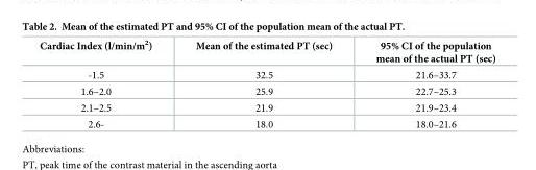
<table><thead><tr><td>Cardiac Index (l/min/m<sup>2</sup>)</td><td>Mean of the estimated PT (sec)</td><td>95% CI of the population mean of the actual PT (sec)</td></tr></thead><tbody><tr><td>-1.5</td><td>32.5</td><td>21.6–33.7</td></tr><tr><td>1.6–2.0</td><td>25.9</td><td>22.7–25.3</td></tr><tr><td>2.1–2.5</td><td>21.9</td><td>21.9–23.4</td></tr><tr><td>2.6-</td><td>18.0</td><td>18.0–21.6</td></tr></tbody></table>